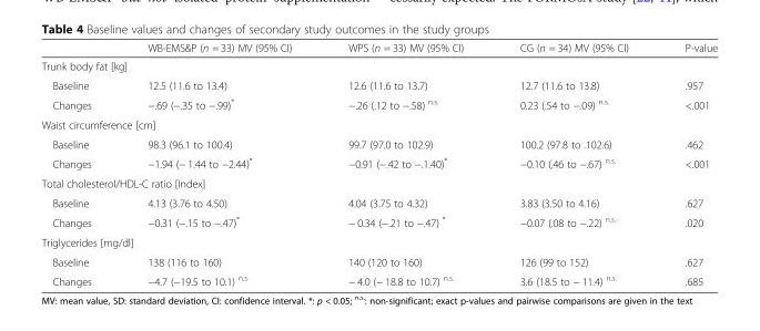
<table><thead><tr><td></td><td>WB-EMS&amp;P (n = 33) MV (95% CI)</td><td>WPS (n = 33) MV (95% CI)</td><td>CG (n = 34) MV (95% CI)</td><td>P-value</td></tr></thead><tbody><tr><td colspan="5">Trunk body fat [kg]</td></tr><tr><td>Baseline</td><td>12.5 (11.6 to 13.4)</td><td>12.6 (11.6 to 13.7)</td><td>12.7 (11.6 to 13.8)</td><td>.957</td></tr><tr><td>Changes</td><td>−.69 (−.35 to −.99)*</td><td>−.26 (.12 to −.58) <sup>n.s.</sup></td><td>0.23 (.54 to −.09) <sup>n.s.</sup></td><td>&lt;.001</td></tr><tr><td colspan="5">Waist circumference [cm]</td></tr><tr><td>Baseline</td><td>98.3 (96.1 to 100.4)</td><td>99.7 (97.0 to 102.9)</td><td>100.2 (97.8 to .102.6)</td><td>.462</td></tr><tr><td>Changes</td><td>−1.94 (− 1.44 to −2.44)*</td><td>−0.91 (−.42 to −.1.40)*</td><td>−0.10 (.46 to −.67) <sup>n.s.</sup></td><td>&lt;.001</td></tr><tr><td colspan="5">Total cholesterol/HDL-C ratio [Index]</td></tr><tr><td>Baseline</td><td>4.13 (3.76 to 4.50)</td><td>4.04 (3.75 to 4.32)</td><td>3.83 (3.50 to 4.16)</td><td>.627</td></tr><tr><td>Changes</td><td>−0.31 (−.15 to −.47)*</td><td>− 0.34 (−.21 to −.47) *</td><td>−0.07 (.08 to −.22) <sup>n.s.</sup></td><td>.020</td></tr><tr><td colspan="5">Triglycerides [mg/dl]</td></tr><tr><td>Baseline</td><td>138 (116 to 160)</td><td>140 (120 to 160)</td><td>126 (99 to 152)</td><td>.627</td></tr><tr><td>Changes</td><td>−4.7 (−19.5 to 10.1) <sup>n.s</sup></td><td>− 4.0 (− 18.8 to 10.7) <sup>n.s.</sup></td><td>3.6 (18.5 to − 11.4) <sup>n.s.</sup></td><td>.685</td></tr></tbody></table>